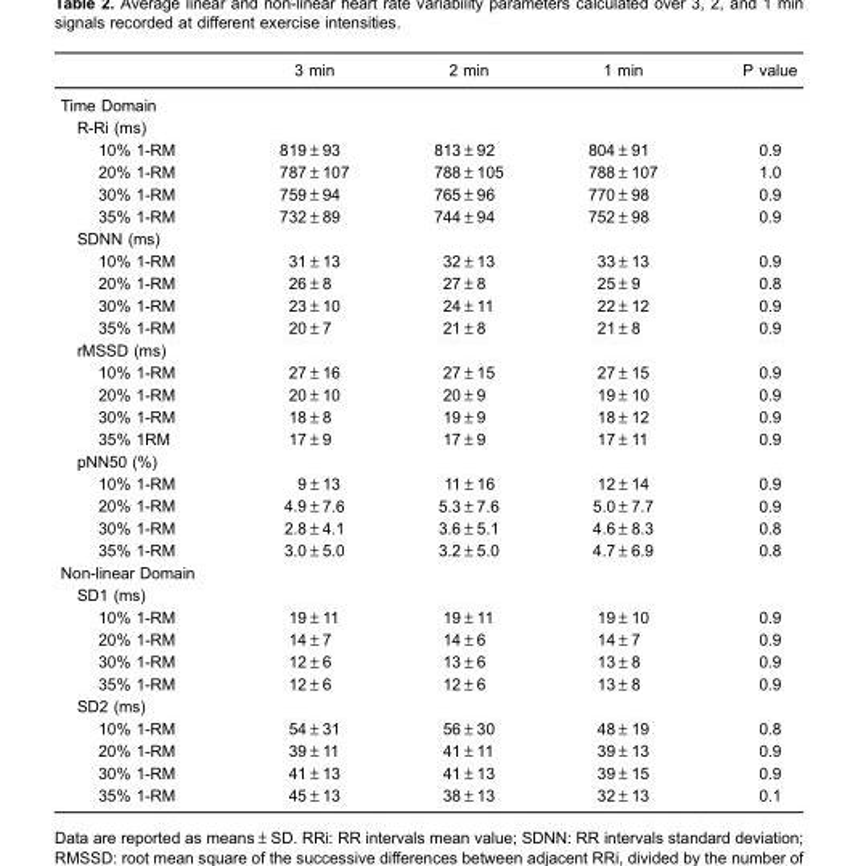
<table><thead><tr><td></td><td>3 min</td><td>2 min</td><td>1 min</td><td>P value</td></tr></thead><tbody><tr><td colspan="5">Time Domain</td></tr><tr><td colspan="5">R-Ri (ms)</td></tr><tr><td>10% 1-RM</td><td>819±93</td><td>813±92</td><td>804±91</td><td>0.9</td></tr><tr><td>20% 1-RM</td><td>787±107</td><td>788±105</td><td>788±107</td><td>1.0</td></tr><tr><td>30% 1-RM</td><td>759±94</td><td>765±96</td><td>770±98</td><td>0.9</td></tr><tr><td>35% 1-RM</td><td>732±89</td><td>744±94</td><td>752±98</td><td>0.9</td></tr><tr><td colspan="5">SDNN (ms)</td></tr><tr><td>10% 1-RM</td><td>31±13</td><td>32±13</td><td>33±13</td><td>0.9</td></tr><tr><td>20% 1-RM</td><td>26±8</td><td>27±8</td><td>25±9</td><td>0.8</td></tr><tr><td>30% 1-RM</td><td>23±10</td><td>24±11</td><td>22±12</td><td>0.9</td></tr><tr><td>35% 1-RM</td><td>20±7</td><td>21±8</td><td>21±8</td><td>0.9</td></tr><tr><td colspan="5">rMSSD (ms)</td></tr><tr><td>10% 1-RM</td><td>27±16</td><td>27±15</td><td>27±15</td><td>0.9</td></tr><tr><td>20% 1-RM</td><td>20±10</td><td>20±9</td><td>19±10</td><td>0.9</td></tr><tr><td>30% 1-RM</td><td>18±8</td><td>19±9</td><td>18±12</td><td>0.9</td></tr><tr><td>35% 1RM</td><td>17±9</td><td>17±9</td><td>17±11</td><td>0.9</td></tr><tr><td colspan="5">pNN50 (%)</td></tr><tr><td>10% 1-RM</td><td>9±13</td><td>11±16</td><td>12±14</td><td>0.9</td></tr><tr><td>20% 1-RM</td><td>4.9±7.6</td><td>5.3±7.6</td><td>5.0±7.7</td><td>0.9</td></tr><tr><td>30% 1-RM</td><td>2.8±4.1</td><td>3.6±5.1</td><td>4.6±8.3</td><td>0.8</td></tr><tr><td>35% 1-RM</td><td>3.0±5.0</td><td>3.2±5.0</td><td>4.7±6.9</td><td>0.8</td></tr><tr><td colspan="5">Non-linear Domain</td></tr><tr><td colspan="5">SD1 (ms)</td></tr><tr><td>10% 1-RM</td><td>19±11</td><td>19±11</td><td>19±10</td><td>0.9</td></tr><tr><td>20% 1-RM</td><td>14±7</td><td>14±6</td><td>14±7</td><td>0.9</td></tr><tr><td>30% 1-RM</td><td>12±6</td><td>13±6</td><td>13±8</td><td>0.9</td></tr><tr><td>35% 1-RM</td><td>12±6</td><td>12±6</td><td>13±8</td><td>0.9</td></tr><tr><td colspan="5">SD2 (ms)</td></tr><tr><td>10% 1-RM</td><td>54±31</td><td>56±30</td><td>48±19</td><td>0.8</td></tr><tr><td>20% 1-RM</td><td>39±11</td><td>41±11</td><td>39±13</td><td>0.9</td></tr><tr><td>30% 1-RM</td><td>41±13</td><td>41±13</td><td>39±15</td><td>0.9</td></tr><tr><td>35% 1-RM</td><td>45±13</td><td>38±13</td><td>32±13</td><td>0.1</td></tr></tbody></table>